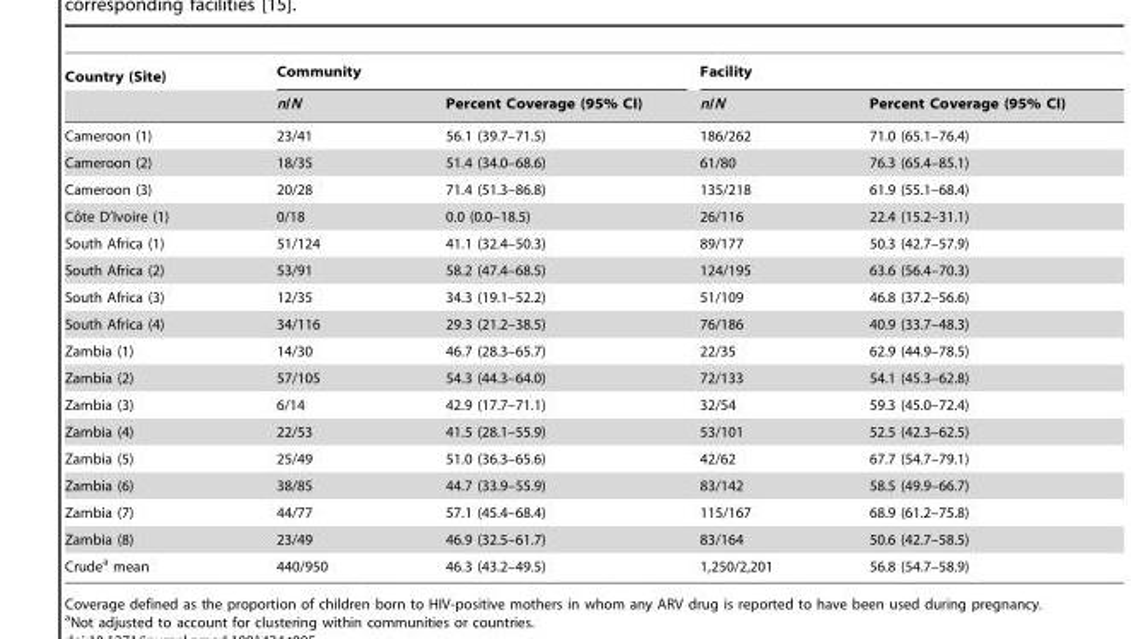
<table><thead><tr><td rowspan="2">Country (Site)</td><td colspan="2">Community</td><td colspan="2">Facility</td></tr><tr><td>n/N</td><td>Percent Coverage (95% CI)</td><td>n/N</td><td>Percent Coverage (95% CI)</td></tr></thead><tbody><tr><td>Cameroon (1)</td><td>23/41</td><td>56.1 (39.7–71.5)</td><td>186/262</td><td>71.0 (65.1–76.4)</td></tr><tr><td>Cameroon (2)</td><td>18/35</td><td>51.4 (34.0–68.6)</td><td>61/80</td><td>76.3 (65.4–85.1)</td></tr><tr><td>Cameroon (3)</td><td>20/28</td><td>71.4 (51.3–86.8)</td><td>135/218</td><td>61.9 (55.1–68.4)</td></tr><tr><td>Coˆte D’Ivoire (1)</td><td>0/18</td><td>0.0 (0.0–18.5)</td><td>26/116</td><td>22.4 (15.2–31.1)</td></tr><tr><td>South Africa (1)</td><td>51/124</td><td>41.1 (32.4–50.3)</td><td>89/177</td><td>50.3 (42.7–57.9)</td></tr><tr><td>South Africa (2)</td><td>53/91</td><td>58.2 (47.4–68.5)</td><td>124/195</td><td>63.6 (56.4–70.3)</td></tr><tr><td>South Africa (3)</td><td>12/35</td><td>34.3 (19.1–52.2)</td><td>51/109</td><td>46.8 (37.2–56.6)</td></tr><tr><td>South Africa (4)</td><td>34/116</td><td>29.3 (21.2–38.5)</td><td>76/186</td><td>40.9 (33.7–48.3)</td></tr><tr><td>Zambia (1)</td><td>14/30</td><td>46.7 (28.3–65.7)</td><td>22/35</td><td>62.9 (44.9–78.5)</td></tr><tr><td>Zambia (2)</td><td>57/105</td><td>54.3 (44.3–64.0)</td><td>72/133</td><td>54.1 (45.3–62.8)</td></tr><tr><td>Zambia (3)</td><td>6/14</td><td>42.9 (17.7–71.1)</td><td>32/54</td><td>59.3 (45.0–72.4)</td></tr><tr><td>Zambia (4)</td><td>22/53</td><td>41.5 (28.1–55.9)</td><td>53/101</td><td>52.5 (42.3–62.5)</td></tr><tr><td>Zambia (5)</td><td>25/49</td><td>51.0 (36.3–65.6)</td><td>42/62</td><td>67.7 (54.7–79.1)</td></tr><tr><td>Zambia (6)</td><td>38/85</td><td>44.7 (33.9–55.9)</td><td>83/142</td><td>58.5 (49.9–66.7)</td></tr><tr><td>Zambia (7)</td><td>44/77</td><td>57.1 (45.4–68.4)</td><td>115/167</td><td>68.9 (61.2–75.8)</td></tr><tr><td>Zambia (8)</td><td>23/49</td><td>46.9 (32.5–61.7)</td><td>83/164</td><td>50.6 (42.7–58.5)</td></tr><tr><td>Crude<sup>a</sup> mean</td><td>440/950</td><td>46.3 (43.2–49.5)</td><td>1,250/2,201</td><td>56.8 (54.7–58.9)</td></tr></tbody></table>